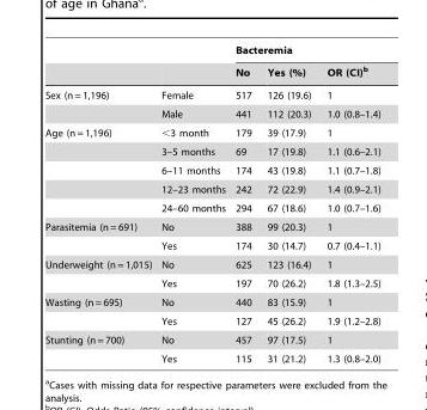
<table><thead><tr><td rowspan="2"></td><td rowspan="2"></td><td colspan="3">Bacteremia</td></tr><tr><td>No</td><td>Yes (%)</td><td>OR (CI)<sup>b</sup></td></tr></thead><tbody><tr><td rowspan="2">Sex (n = 1,196)</td><td>Female</td><td>517</td><td>126 (19.6)</td><td>1</td></tr><tr><td>Male</td><td>441</td><td>112 (20.3)</td><td>1.0 (0.8–1.4)</td></tr><tr><td rowspan="5">Age (n = 1,196)</td><td>&lt;3 month</td><td>179</td><td>39 (17.9)</td><td>1</td></tr><tr><td>3–5 months</td><td>69</td><td>17 (19.8)</td><td>1.1 (0.6–2.1)</td></tr><tr><td>6–11 months</td><td>174</td><td>43 (19.8)</td><td>1.1 (0.7–1.8)</td></tr><tr><td>12–23 months</td><td>242</td><td>72 (22.9)</td><td>1.4 (0.9–2.1)</td></tr><tr><td>24–60 months</td><td>294</td><td>67 (18.6)</td><td>1.0 (0.7–1.6)</td></tr><tr><td rowspan="2">Parasitemia (n = 691)</td><td>No</td><td>388</td><td>99 (20.3)</td><td>1</td></tr><tr><td>Yes</td><td>174</td><td>30 (14.7)</td><td>0.7 (0.4–1.1)</td></tr><tr><td rowspan="2">Underweight (n = 1,015)</td><td>No</td><td>625</td><td>123 (16.4)</td><td>1</td></tr><tr><td>Yes</td><td>197</td><td>70 (26.2)</td><td>1.8 (1.3–2.5)</td></tr><tr><td rowspan="2">Wasting (n = 695)</td><td>No</td><td>440</td><td>83 (15.9)</td><td>1</td></tr><tr><td>Yes</td><td>127</td><td>45 (26.2)</td><td>1.9 (1.2–2.8)</td></tr><tr><td rowspan="2">Stunting (n = 700)</td><td>No</td><td>457</td><td>97 (17.5)</td><td>1</td></tr><tr><td>Yes</td><td>115</td><td>31 (21.2)</td><td>1.3 (0.8–2.0)</td></tr></tbody></table>